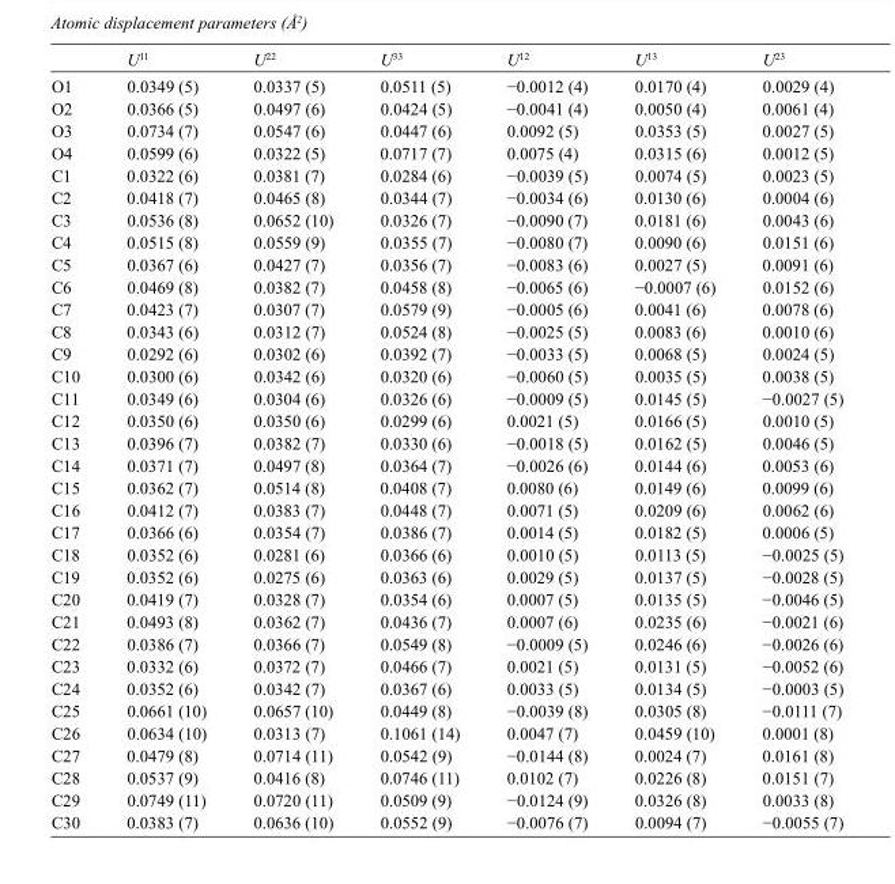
<table><thead><tr><td></td><td>U<sup>11</sup></td><td>U<sup>22</sup></td><td>U<sup>33</sup></td><td>U<sup>12</sup></td><td>U<sup>13</sup></td><td>U<sup>23</sup></td></tr></thead><tbody><tr><td>O1</td><td>0.0349 (5)</td><td>0.0337 (5)</td><td>0.0511 (5)</td><td>−0.0012 (4)</td><td>0.0170 (4)</td><td>0.0029 (4)</td></tr><tr><td>O2</td><td>0.0366 (5)</td><td>0.0497 (6)</td><td>0.0424 (5)</td><td>−0.0041 (4)</td><td>0.0050 (4)</td><td>0.0061 (4)</td></tr><tr><td>O3</td><td>0.0734 (7)</td><td>0.0547 (6)</td><td>0.0447 (6)</td><td>0.0092 (5)</td><td>0.0353 (5)</td><td>0.0027 (5)</td></tr><tr><td>O4</td><td>0.0599 (6)</td><td>0.0322 (5)</td><td>0.0717 (7)</td><td>0.0075 (4)</td><td>0.0315 (6)</td><td>0.0012 (5)</td></tr><tr><td>C1</td><td>0.0322 (6)</td><td>0.0381 (7)</td><td>0.0284 (6)</td><td>−0.0039 (5)</td><td>0.0074 (5)</td><td>0.0023 (5)</td></tr><tr><td>C2</td><td>0.0418 (7)</td><td>0.0465 (8)</td><td>0.0344 (7)</td><td>−0.0034 (6)</td><td>0.0130 (6)</td><td>0.0004 (6)</td></tr><tr><td>C3</td><td>0.0536 (8)</td><td>0.0652 (10)</td><td>0.0326 (7)</td><td>−0.0090 (7)</td><td>0.0181 (6)</td><td>0.0043 (6)</td></tr><tr><td>C4</td><td>0.0515 (8)</td><td>0.0559 (9)</td><td>0.0355 (7)</td><td>−0.0080 (7)</td><td>0.0090 (6)</td><td>0.0151 (6)</td></tr><tr><td>C5</td><td>0.0367 (6)</td><td>0.0427 (7)</td><td>0.0356 (7)</td><td>−0.0083 (6)</td><td>0.0027 (5)</td><td>0.0091 (6)</td></tr><tr><td>C6</td><td>0.0469 (8)</td><td>0.0382 (7)</td><td>0.0458 (8)</td><td>−0.0065 (6)</td><td>−0.0007 (6)</td><td>0.0152 (6)</td></tr><tr><td>C7</td><td>0.0423 (7)</td><td>0.0307 (7)</td><td>0.0579 (9)</td><td>−0.0005 (6)</td><td>0.0041 (6)</td><td>0.0078 (6)</td></tr><tr><td>C8</td><td>0.0343 (6)</td><td>0.0312 (7)</td><td>0.0524 (8)</td><td>−0.0025 (5)</td><td>0.0083 (6)</td><td>0.0010 (6)</td></tr><tr><td>C9</td><td>0.0292 (6)</td><td>0.0302 (6)</td><td>0.0392 (7)</td><td>−0.0033 (5)</td><td>0.0068 (5)</td><td>0.0024 (5)</td></tr><tr><td>C10</td><td>0.0300 (6)</td><td>0.0342 (6)</td><td>0.0320 (6)</td><td>−0.0060 (5)</td><td>0.0035 (5)</td><td>0.0038 (5)</td></tr><tr><td>C11</td><td>0.0349 (6)</td><td>0.0304 (6)</td><td>0.0326 (6)</td><td>−0.0009 (5)</td><td>0.0145 (5)</td><td>−0.0027 (5)</td></tr><tr><td>C12</td><td>0.0350 (6)</td><td>0.0350 (6)</td><td>0.0299 (6)</td><td>0.0021 (5)</td><td>0.0166 (5)</td><td>0.0010 (5)</td></tr><tr><td>C13</td><td>0.0396 (7)</td><td>0.0382 (7)</td><td>0.0330 (6)</td><td>−0.0018 (5)</td><td>0.0162 (5)</td><td>0.0046 (5)</td></tr><tr><td>C14</td><td>0.0371 (7)</td><td>0.0497 (8)</td><td>0.0364 (7)</td><td>−0.0026 (6)</td><td>0.0144 (6)</td><td>0.0053 (6)</td></tr><tr><td>C15</td><td>0.0362 (7)</td><td>0.0514 (8)</td><td>0.0408 (7)</td><td>0.0080 (6)</td><td>0.0149 (6)</td><td>0.0099 (6)</td></tr><tr><td>C16</td><td>0.0412 (7)</td><td>0.0383 (7)</td><td>0.0448 (7)</td><td>0.0071 (5)</td><td>0.0209 (6)</td><td>0.0062 (6)</td></tr><tr><td>C17</td><td>0.0366 (6)</td><td>0.0354 (7)</td><td>0.0386 (7)</td><td>0.0014 (5)</td><td>0.0182 (5)</td><td>0.0006 (5)</td></tr><tr><td>C18</td><td>0.0352 (6)</td><td>0.0281 (6)</td><td>0.0366 (6)</td><td>0.0010 (5)</td><td>0.0113 (5)</td><td>−0.0025 (5)</td></tr><tr><td>C19</td><td>0.0352 (6)</td><td>0.0275 (6)</td><td>0.0363 (6)</td><td>0.0029 (5)</td><td>0.0137 (5)</td><td>−0.0028 (5)</td></tr><tr><td>C20</td><td>0.0419 (7)</td><td>0.0328 (7)</td><td>0.0354 (6)</td><td>0.0007 (5)</td><td>0.0135 (5)</td><td>−0.0046 (5)</td></tr><tr><td>C21</td><td>0.0493 (8)</td><td>0.0362 (7)</td><td>0.0436 (7)</td><td>0.0007 (6)</td><td>0.0235 (6)</td><td>−0.0021 (6)</td></tr><tr><td>C22</td><td>0.0386 (7)</td><td>0.0366 (7)</td><td>0.0549 (8)</td><td>−0.0009 (5)</td><td>0.0246 (6)</td><td>−0.0026 (6)</td></tr><tr><td>C23</td><td>0.0332 (6)</td><td>0.0372 (7)</td><td>0.0466 (7)</td><td>0.0021 (5)</td><td>0.0131 (5)</td><td>−0.0052 (6)</td></tr><tr><td>C24</td><td>0.0352 (6)</td><td>0.0342 (7)</td><td>0.0367 (6)</td><td>0.0033 (5)</td><td>0.0134 (5)</td><td>−0.0003 (5)</td></tr><tr><td>C25</td><td>0.0661 (10)</td><td>0.0657 (10)</td><td>0.0449 (8)</td><td>−0.0039 (8)</td><td>0.0305 (8)</td><td>−0.0111 (7)</td></tr><tr><td>C26</td><td>0.0634 (10)</td><td>0.0313 (7)</td><td>0.1061 (14)</td><td>0.0047 (7)</td><td>0.0459 (10)</td><td>0.0001 (8)</td></tr><tr><td>C27</td><td>0.0479 (8)</td><td>0.0714 (11)</td><td>0.0542 (9)</td><td>−0.0144 (8)</td><td>0.0024 (7)</td><td>0.0161 (8)</td></tr><tr><td>C28</td><td>0.0537 (9)</td><td>0.0416 (8)</td><td>0.0746 (11)</td><td>0.0102 (7)</td><td>0.0226 (8)</td><td>0.0151 (7)</td></tr><tr><td>C29</td><td>0.0749 (11)</td><td>0.0720 (11)</td><td>0.0509 (9)</td><td>−0.0124 (9)</td><td>0.0326 (8)</td><td>0.0033 (8)</td></tr><tr><td>C30</td><td>0.0383 (7)</td><td>0.0636 (10)</td><td>0.0552 (9)</td><td>−0.0076 (7)</td><td>0.0094 (7)</td><td>−0.0055 (7)</td></tr></tbody></table>